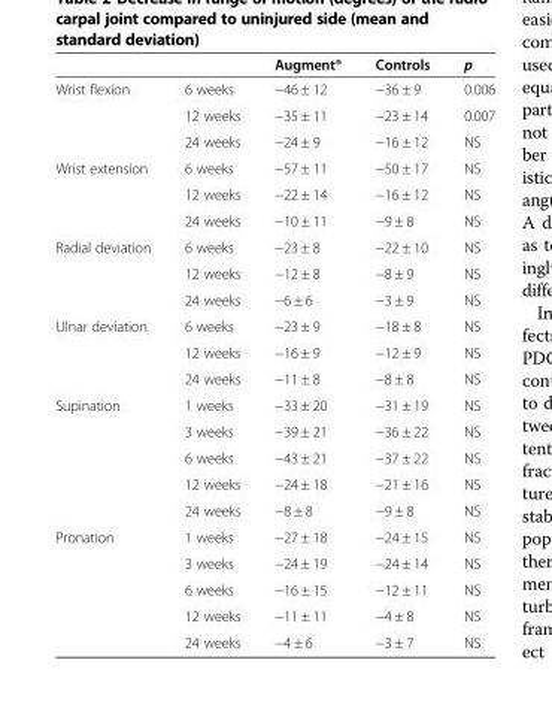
<table><thead><tr><td></td><td></td><td>Augment®</td><td>Controls</td><td>p</td></tr></thead><tbody><tr><td rowspan="3">Wrist flexion</td><td>6 weeks</td><td>−46 ± 12</td><td>−36 ± 9</td><td>0.006</td></tr><tr><td>12 weeks</td><td>−35 ± 11</td><td>−23 ± 14</td><td>0.007</td></tr><tr><td>24 weeks</td><td>−24 ± 9</td><td>−16 ± 12</td><td>NS</td></tr><tr><td rowspan="3">Wrist extension</td><td>6 weeks</td><td>−57 ± 11</td><td>−50 ± 17</td><td>NS</td></tr><tr><td>12 weeks</td><td>−22 ± 14</td><td>−16 ± 12</td><td>NS</td></tr><tr><td>24 weeks</td><td>−10 ± 11</td><td>−9 ± 8</td><td>NS</td></tr><tr><td rowspan="3">Radial deviation</td><td>6 weeks</td><td>−23 ± 8</td><td>−22 ± 10</td><td>NS</td></tr><tr><td>12 weeks</td><td>−12 ± 8</td><td>−8 ± 9</td><td>NS</td></tr><tr><td>24 weeks</td><td>−6 ± 6</td><td>−3 ± 9</td><td>NS</td></tr><tr><td rowspan="3">Ulnar deviation</td><td>6 weeks</td><td>−23 ± 9</td><td>−18 ± 8</td><td>NS</td></tr><tr><td>12 weeks</td><td>−16 ± 9</td><td>−12 ± 9</td><td>NS</td></tr><tr><td>24 weeks</td><td>−11 ± 8</td><td>−8 ± 8</td><td>NS</td></tr><tr><td rowspan="5">Supination</td><td>1 weeks</td><td>−33 ± 20</td><td>−31 ± 19</td><td>NS</td></tr><tr><td>3 weeks</td><td>−39 ± 21</td><td>−36 ± 22</td><td>NS</td></tr><tr><td>6 weeks</td><td>−43 ± 21</td><td>−37 ± 22</td><td>NS</td></tr><tr><td>12 weeks</td><td>−24 ± 18</td><td>−21 ± 16</td><td>NS</td></tr><tr><td>24 weeks</td><td>−8 ± 8</td><td>−9 ± 8</td><td>NS</td></tr><tr><td rowspan="5">Pronation</td><td>1 weeks</td><td>−27 ± 18</td><td>−24 ± 15</td><td>NS</td></tr><tr><td>3 weeks</td><td>−24 ± 19</td><td>−24 ± 14</td><td>NS</td></tr><tr><td>6 weeks</td><td>−16 ± 15</td><td>−12 ± 11</td><td>NS</td></tr><tr><td>12 weeks</td><td>−11 ± 11</td><td>−4 ± 8</td><td>NS</td></tr><tr><td>24 weeks</td><td>−4 ± 6</td><td>−3 ± 7</td><td>NS</td></tr></tbody></table>